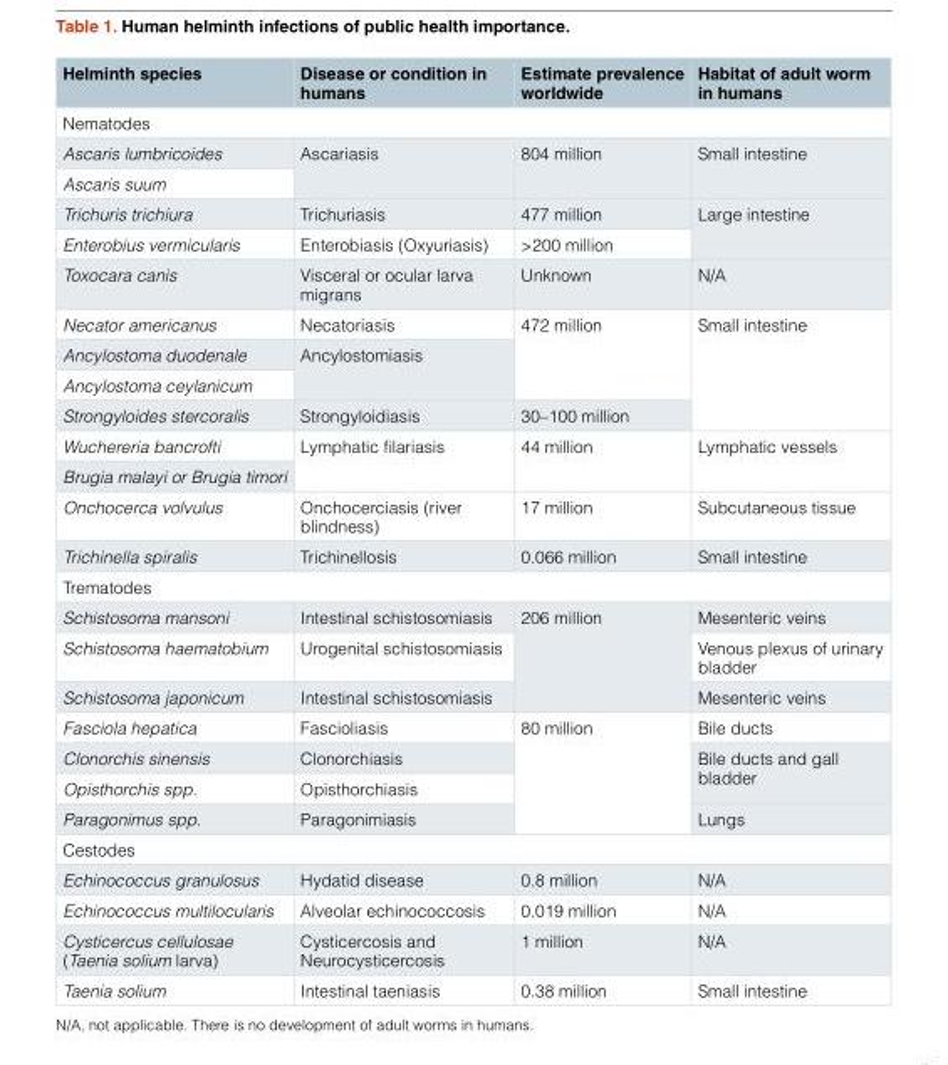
<table><thead><tr><td>Helminth species</td><td>Disease or condition in humans</td><td>Estimate prevalence worldwide</td><td>Habitat of adult worm in humans</td></tr></thead><tbody><tr><td colspan="4">Nematodes</td></tr><tr><td>Ascaris lumbricoides</td><td rowspan="2">Ascariasis</td><td rowspan="2">804 million</td><td rowspan="2">Small intestine</td></tr><tr><td>Ascaris suum</td></tr><tr><td>Trichuris trichiura</td><td>Trichuriasis</td><td>477 million</td><td rowspan="2">Large intestine</td></tr><tr><td>Enterobius vermicularis</td><td>Enterobiasis (Oxyuriasis)</td><td>&gt;200 million</td></tr><tr><td>Toxocara canis</td><td>Visceral or ocular larva migrans</td><td>Unknown</td><td>N/A</td></tr><tr><td>Necator americanus</td><td>Necatoriasis</td><td rowspan="3">472 million</td><td rowspan="4">Small intestine</td></tr><tr><td>Ancylostoma duodenale</td><td rowspan="2">Ancylostomiasis</td></tr><tr><td>Ancylostoma ceylanicum</td></tr><tr><td>Strongyloides stercoralis</td><td>Strongyloidiasis</td><td>30–100 million</td></tr><tr><td>Wuchereria bancrofti</td><td rowspan="2">Lymphatic filariasis</td><td rowspan="2">44 million</td><td rowspan="2">Lymphatic vessels</td></tr><tr><td>Brugia malayi or Brugia timori</td></tr><tr><td>Onchocerca volvulus</td><td>Onchocerciasis (river blindness)</td><td>17 million</td><td>Subcutaneous tissue</td></tr><tr><td>Trichinella spiralis</td><td>Trichinellosis</td><td>0.066 million</td><td>Small intestine</td></tr><tr><td colspan="4">Trematodes</td></tr><tr><td>Schistosoma mansoni</td><td>Intestinal schistosomiasis</td><td rowspan="3">206 million</td><td>Mesenteric veins</td></tr><tr><td>Schistosoma haematobium</td><td>Urogenital schistosomiasis</td><td>Venous plexus of urinary bladder</td></tr><tr><td>Schistosoma japonicum</td><td>Intestinal schistosomiasis</td><td>Mesenteric veins</td></tr><tr><td>Fasciola hepatica</td><td>Fascioliasis</td><td rowspan="4">80 million</td><td>Bile ducts</td></tr><tr><td>Clonorchis sinensis</td><td>Clonorchiasis</td><td rowspan="2">Bile ducts and gall bladder</td></tr><tr><td>Opisthorchis spp.</td><td>Opisthorchiasis</td></tr><tr><td>Paragonimus spp.</td><td>Paragonimiasis</td><td>Lungs</td></tr><tr><td colspan="4">Cestodes</td></tr><tr><td>Echinococcus granulosus</td><td>Hydatid disease</td><td>0.8 million</td><td>N/A</td></tr><tr><td>Echinococcus multilocularis</td><td>Alveolar echinococcosis</td><td>0.019 million</td><td>N/A</td></tr><tr><td>Cysticercus cellulosae (Taenia solium larva)</td><td>Cysticercosis and Neurocysticercosis</td><td>1 million</td><td>N/A</td></tr><tr><td>Taenia solium</td><td>Intestinal taeniasis</td><td>0.38 million</td><td>Small intestine</td></tr></tbody></table>